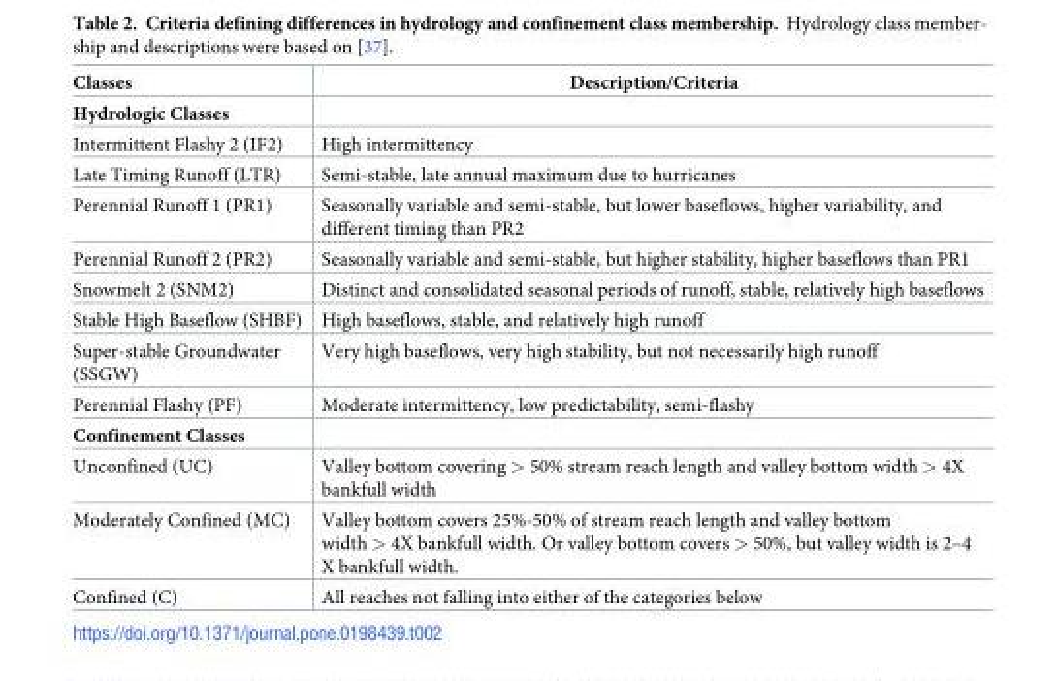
<table><thead><tr><td>Classes</td><td>Description/Criteria</td></tr></thead><tbody><tr><td colspan="2">Hydrologic Classes</td></tr><tr><td>Intermittent Flashy 2 (IF2)</td><td>High intermittency</td></tr><tr><td>Late Timing Runoff (LTR)</td><td>Semi-stable, late annual maximum due to hurricanes</td></tr><tr><td>Perennial Runoff 1 (PR1)</td><td>Seasonally variable and semi-stable, but lower baseflows, higher variability, and different timing than PR2</td></tr><tr><td>Perennial Runoff 2 (PR2)</td><td>Seasonally variable and semi-stable, but higher stability, higher baseflows than PR1</td></tr><tr><td>Snowmelt 2 (SNM2)</td><td>Distinct and consolidated seasonal periods of runoff, stable, relatively high baseflows</td></tr><tr><td>Stable High Baseflow (SHBF)</td><td>High baseflows, stable, and relatively high runoff</td></tr><tr><td>Super-stable Groundwater (SSGW)</td><td>Very high baseflows, very high stability, but not necessarily high runoff</td></tr><tr><td>Perennial Flashy (PF)</td><td>Moderate intermittency, low predictability, semi-flashy</td></tr><tr><td colspan="2">Confinement Classes</td></tr><tr><td>Unconfined (UC)</td><td>Valley bottom covering &gt; 50% stream reach length and valley bottom width &gt; 4X bankfull width</td></tr><tr><td>Moderately Confined (MC)</td><td>Valley bottom covers 25%-50% of stream reach length and valley bottom width &gt; 4X bankfull width. Or valley bottom covers &gt; 50%, but valley width is 2–4 X bankfull width.</td></tr><tr><td>Confined (C)</td><td>All reaches not falling into either of the categories below</td></tr></tbody></table>